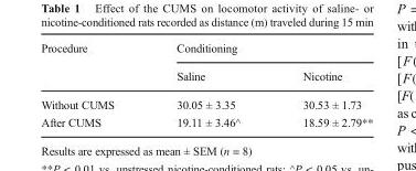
<table><thead><tr><td rowspan="2">Procedure</td><td colspan="2">Conditioning</td></tr><tr><td>Saline</td><td>Nicotine</td></tr></thead><tbody><tr><td>Without CUMS</td><td>30.05 ± 3.35</td><td>30.53 ± 1.73</td></tr><tr><td>After CUMS</td><td>19.11 ± 3.46^</td><td>18.59 ± 2.79**</td></tr></tbody></table>